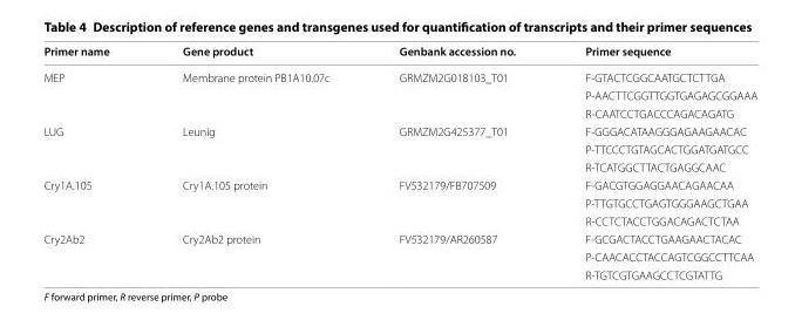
<table><thead><tr><td>Primer name</td><td>Gene product</td><td>Genbank accession no.</td><td>Primer sequence</td></tr></thead><tbody><tr><td rowspan="3">MEP</td><td rowspan="3">Membrane protein PB1A10.07c</td><td rowspan="3">GRMZM2G018103_T01</td><td>F‑GTACTCGGCAATGCTCTTGA</td></tr><tr><td>P‑AACTTCGGTTGGTGAGAGCGGAAA</td></tr><tr><td>R‑CAATCCTGACCCAGACAGATG</td></tr><tr><td rowspan="3">LUG</td><td rowspan="3">Leunig</td><td rowspan="3">GRMZM2G425377_T01</td><td>F‑GGGACATAAGGGAGAAGAACAC</td></tr><tr><td>P‑TTCCCTGTAGCACTGGATGATGCC</td></tr><tr><td>R‑TCATGGCTTACTGAGGCAAC</td></tr><tr><td rowspan="3">Cry1A.105</td><td rowspan="3">Cry1A.105 protein</td><td rowspan="3">FV532179/FB707509</td><td>F‑GACGTGGAGGAACAGAACAA</td></tr><tr><td>P‑TTGTGCCTGAGTGGGAAGCTGAA</td></tr><tr><td>R‑CCTCTACCTGGACAGACTCTAA</td></tr><tr><td rowspan="3">Cry2Ab2</td><td rowspan="3">Cry2Ab2 protein</td><td rowspan="3">FV532179/AR260587</td><td>F‑GCGACTACCTGAAGAACTACAC</td></tr><tr><td>P‑CAACACCTACCAGTCGGCCTTCAA</td></tr><tr><td>R‑TGTCGTGAAGCCTCGTATTG</td></tr></tbody></table>